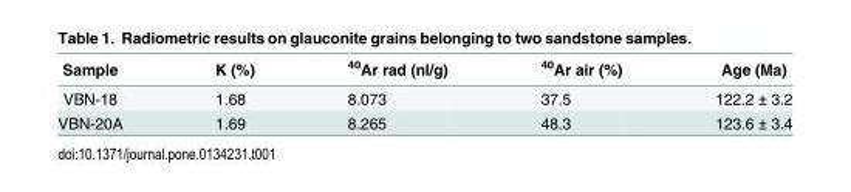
<table><thead><tr><td>Sample</td><td>K (%)</td><td><sup>40</sup>Ar rad (nl/g)</td><td><sup>40</sup>Ar air (%)</td><td>Age (Ma)</td></tr></thead><tbody><tr><td>VBN-18</td><td>1.68</td><td>8.073</td><td>37.5</td><td>122.2 ± 3.2</td></tr><tr><td>VBN-20A</td><td>1.69</td><td>8.265</td><td>48.3</td><td>123.6 ± 3.4</td></tr></tbody></table>